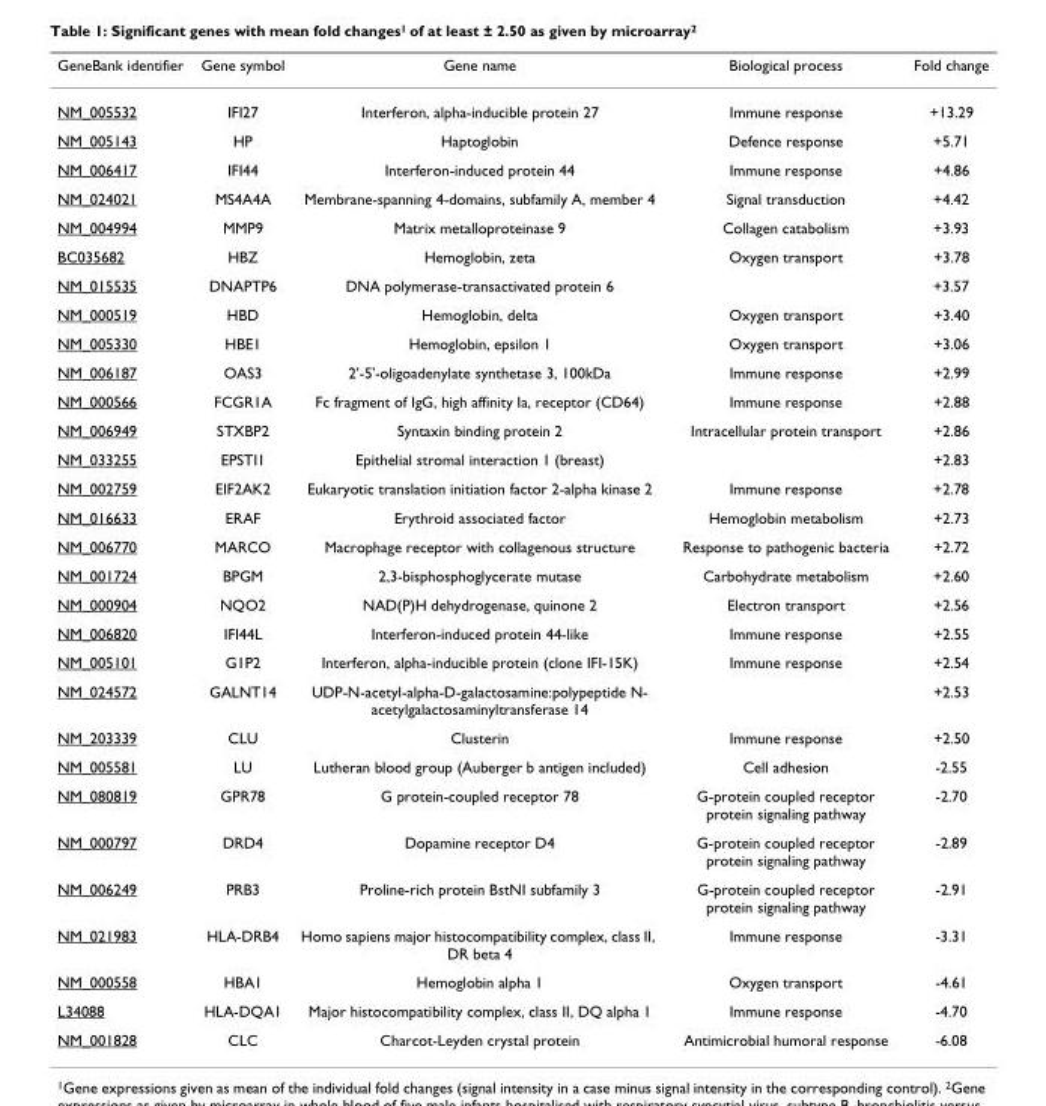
<table><thead><tr><td>GeneBank identifier</td><td>Gene symbol</td><td>Gene name</td><td>Biological process</td><td>Fold change</td></tr></thead><tbody><tr><td>NM_005532</td><td>IFI27</td><td>Interferon, alpha-inducible protein 27</td><td>Immune response</td><td>+13.29</td></tr><tr><td>NM_005143</td><td>HP</td><td>Haptoglobin</td><td>Defence response</td><td>+5.71</td></tr><tr><td>NM_006417</td><td>IFI44</td><td>Interferon-induced protein 44</td><td>Immune response</td><td>+4.86</td></tr><tr><td>NM_024021</td><td>MS4A4A</td><td>Membrane-spanning 4-domains, subfamily A, member 4</td><td>Signal transduction</td><td>+4.42</td></tr><tr><td>NM_004994</td><td>MMP9</td><td>Matrix metalloproteinase 9</td><td>Collagen catabolism</td><td>+3.93</td></tr><tr><td>BC035682</td><td>HBZ</td><td>Hemoglobin, zeta</td><td>Oxygen transport</td><td>+3.78</td></tr><tr><td>NM_015535</td><td>DNAPTP6</td><td>DNA polymerase-transactivated protein 6</td><td></td><td>+3.57</td></tr><tr><td>NM_000519</td><td>HBD</td><td>Hemoglobin, delta</td><td>Oxygen transport</td><td>+3.40</td></tr><tr><td>NM_005330</td><td>HBE1</td><td>Hemoglobin, epsilon 1</td><td>Oxygen transport</td><td>+3.06</td></tr><tr><td>NM_006187</td><td>OAS3</td><td>2&#x27;-5&#x27;-oligoadenylate synthetase 3, 100kDa</td><td>Immune response</td><td>+2.99</td></tr><tr><td>NM_000566</td><td>FCGR1A</td><td>Fc fragment of IgG, high affinity Ia, receptor (CD64)</td><td>Immune response</td><td>+2.88</td></tr><tr><td>NM_006949</td><td>STXBP2</td><td>Syntaxin binding protein 2</td><td>Intracellular protein transport</td><td>+2.86</td></tr><tr><td>NM_033255</td><td>EPSTI1</td><td>Epithelial stromal interaction 1 (breast)</td><td></td><td>+2.83</td></tr><tr><td>NM_002759</td><td>EIF2AK2</td><td>Eukaryotic translation initiation factor 2-alpha kinase 2</td><td>Immune response</td><td>+2.78</td></tr><tr><td>NM_016633</td><td>ERAF</td><td>Erythroid associated factor</td><td>Hemoglobin metabolism</td><td>+2.73</td></tr><tr><td>NM_006770</td><td>MARCO</td><td>Macrophage receptor with collagenous structure</td><td>Response to pathogenic bacteria</td><td>+2.72</td></tr><tr><td>NM_001724</td><td>BPGM</td><td>2,3-bisphosphoglycerate mutase</td><td>Carbohydrate metabolism</td><td>+2.60</td></tr><tr><td>NM_000904</td><td>NQO2</td><td>NAD(P)H dehydrogenase, quinone 2</td><td>Electron transport</td><td>+2.56</td></tr><tr><td>NM_006820</td><td>IFI44L</td><td>Interferon-induced protein 44-like</td><td>Immune response</td><td>+2.55</td></tr><tr><td>NM_005101</td><td>G1P2</td><td>Interferon, alpha-inducible protein (clone IFI-15K)</td><td>Immune response</td><td>+2.54</td></tr><tr><td>NM_024572</td><td>GALNT14</td><td>UDP-N-acetyl-alpha-D-galactosamine:polypeptide N- acetylgalactosaminyltransferase 14</td><td></td><td>+2.53</td></tr><tr><td>NM_203339</td><td>CLU</td><td>Clusterin</td><td>Immune response</td><td>+2.50</td></tr><tr><td>NM_005581</td><td>LU</td><td>Lutheran blood group (Auberger b antigen included)</td><td>Cell adhesion</td><td>-2.55</td></tr><tr><td>NM_080819</td><td>GPR78</td><td>G protein-coupled receptor 78</td><td>G-protein coupled receptor protein signaling pathway</td><td>-2.70</td></tr><tr><td>NM_000797</td><td>DRD4</td><td>Dopamine receptor D4</td><td>G-protein coupled receptor protein signaling pathway</td><td>-2.89</td></tr><tr><td>NM_006249</td><td>PRB3</td><td>Proline-rich protein BstNI subfamily 3</td><td>G-protein coupled receptor protein signaling pathway</td><td>-2.91</td></tr><tr><td>NM_021983</td><td>HLA-DRB4</td><td>Homo sapiens major histocompatibility complex, class II, DR beta 4</td><td>Immune response</td><td>-3.31</td></tr><tr><td>NM_000558</td><td>HBA1</td><td>Hemoglobin alpha 1</td><td>Oxygen transport</td><td>-4.61</td></tr><tr><td>L34088</td><td>HLA-DQA1</td><td>Major histocompatibility complex, class II, DQ alpha 1</td><td>Immune response</td><td>-4.70</td></tr><tr><td>NM_001828</td><td>CLC</td><td>Charcot-Leyden crystal protein</td><td>Antimicrobial humoral response</td><td>-6.08</td></tr></tbody></table>